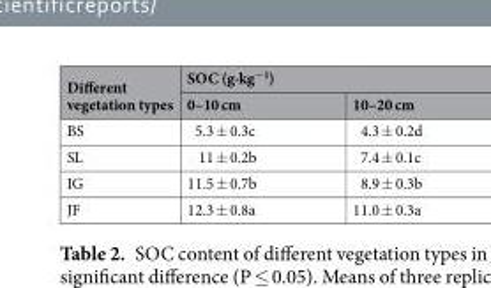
<table><thead><tr><td rowspan="2">Different vegetation types</td><td colspan="2">SOC (g·kg<sup>−1</sup>)</td></tr><tr><td>0–10 cm</td><td>10–20 cm</td></tr></thead><tbody><tr><td>BS</td><td>5.3 ± 0.3c</td><td>4.3 ± 0.2d</td></tr><tr><td>SL</td><td>11 ± 0.2b</td><td>7.4 ± 0.1c</td></tr><tr><td>IG</td><td>11.5 ± 0.7b</td><td>8.9 ± 0.3b</td></tr><tr><td>JF</td><td>12.3 ± 0.8a</td><td>11.0 ± 0.3a</td></tr></tbody></table>